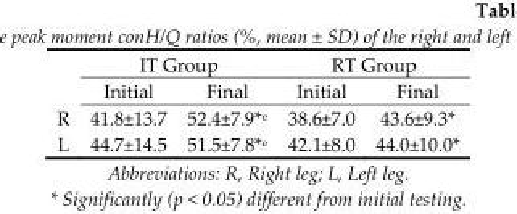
<table><thead><tr><td rowspan="2"></td><td colspan="2">IT Group</td><td colspan="2">RT Group</td></tr><tr><td>Initial</td><td>Final</td><td>Initial</td><td>Final</td></tr></thead><tbody><tr><td>R</td><td>41.8±13.7</td><td>52.4±7.9*<sup>e</sup></td><td>38.6±7.0</td><td>43.6±9.3*</td></tr><tr><td>L</td><td>44.7±14.5</td><td>51.5±7.8*<sup>e</sup></td><td>42.1±8.0</td><td>44.0±10.0*</td></tr></tbody></table>